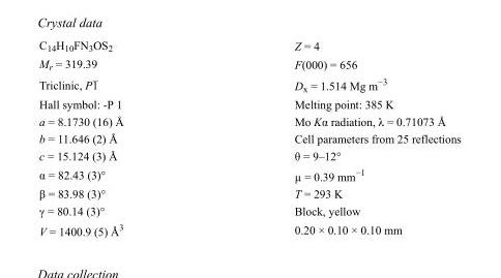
<table><tbody><tr><td>C<sub>14</sub>H<sub>10</sub>FN<sub>3</sub>OS<sub>2</sub></td><td>Z = 4</td></tr><tr><td>M<sub>r</sub> = 319.39</td><td>F(000) = 656</td></tr><tr><td>Triclinic, P1</td><td>D<sub>x</sub> = 1.514 Mg m<sup>−3</sup></td></tr><tr><td>Hall symbol: -P 1</td><td>Melting point: 385 K</td></tr><tr><td>a = 8.1730 (16) Å</td><td>Mo Kα radiation, λ = 0.71073 Å</td></tr><tr><td>b = 11.646 (2) Å</td><td>Cell parameters from 25 reflections</td></tr><tr><td>c = 15.124 (3) Å</td><td>θ = 9–12°</td></tr><tr><td>α = 82.43 (3)°</td><td>µ = 0.39 mm<sup>−1</sup></td></tr><tr><td>β = 83.98 (3)°</td><td>T = 293 K</td></tr><tr><td>γ = 80.14 (3)°</td><td>Block, yellow</td></tr><tr><td>V = 1400.9 (5) Å<sup>3</sup></td><td>0.20 × 0.10 × 0.10 mm</td></tr></tbody></table>